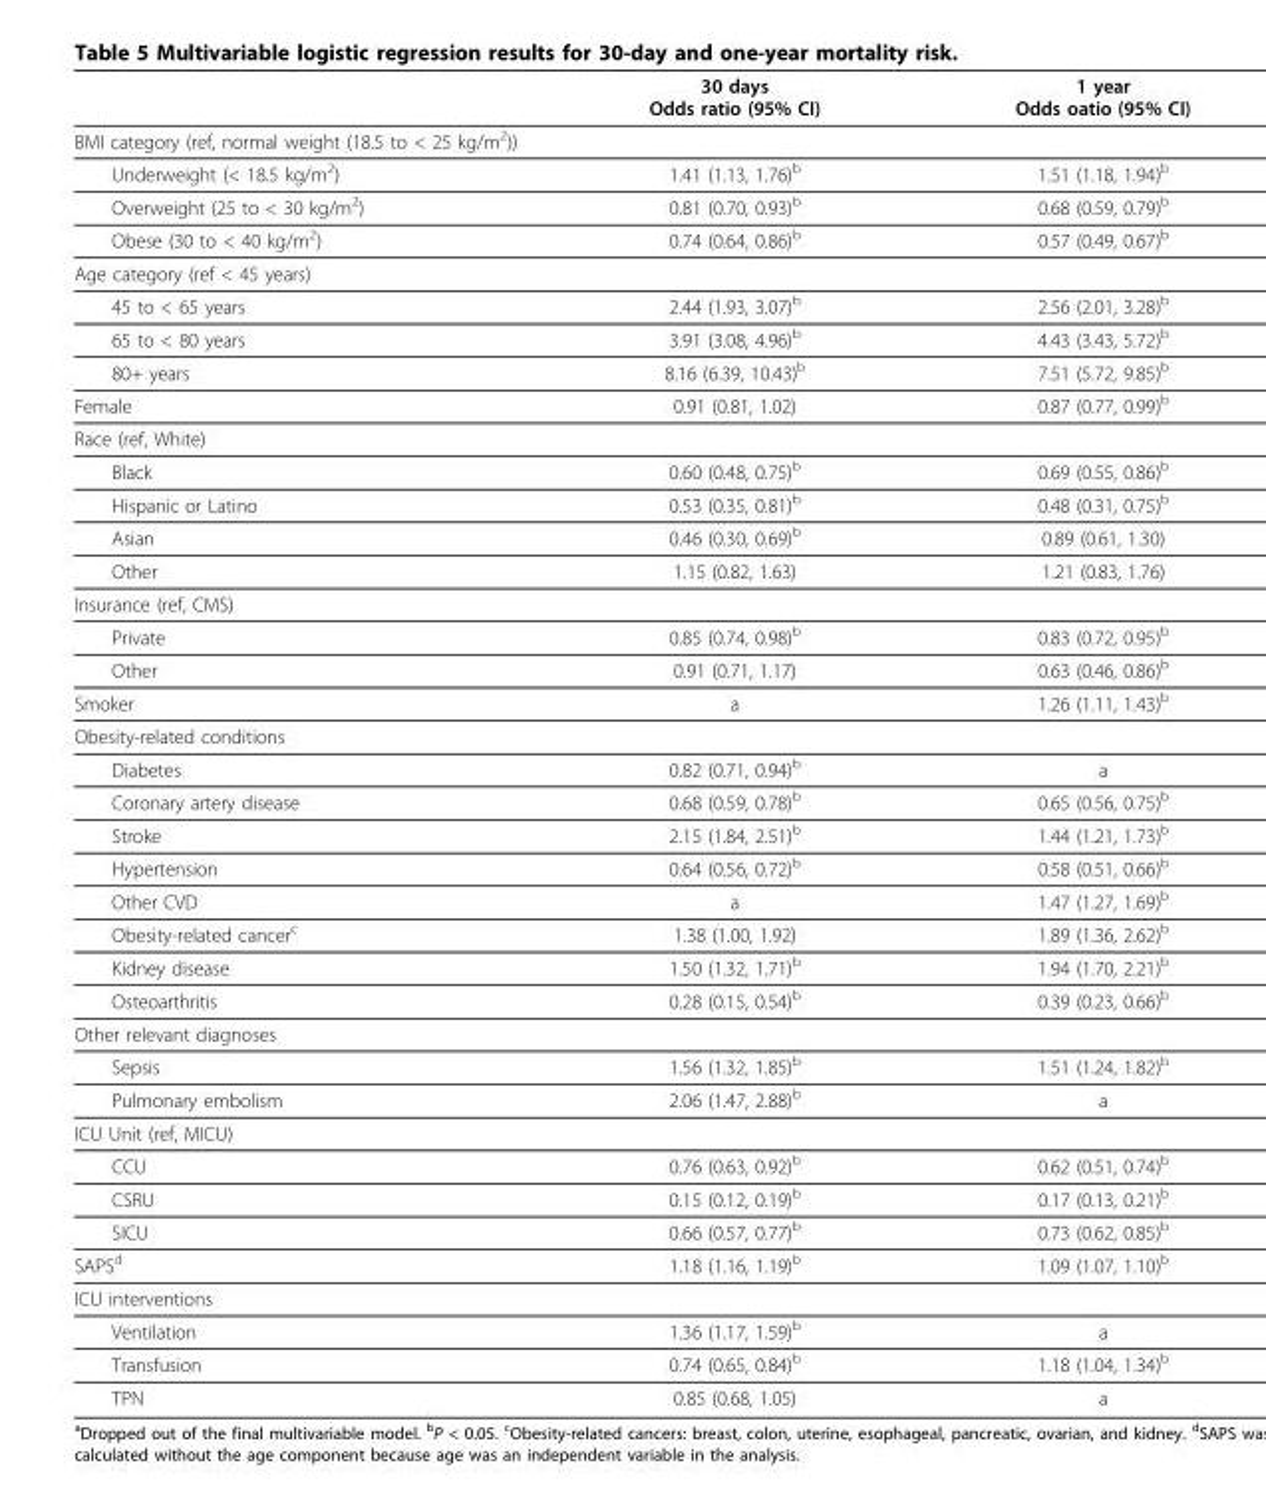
<table><thead><tr><td></td><td>30 days Odds ratio (95% CI)</td><td>1 year Odds oatio (95% CI)</td></tr></thead><tbody><tr><td colspan="3">BMI category (ref, normal weight (18.5 to &lt; 25 kg/m<sup>2</sup>))</td></tr><tr><td>Underweight (&lt; 18.5 kg/m<sup>2</sup>)</td><td>1.41 (1.13, 1.76)<sup>b</sup></td><td>1.51 (1.18, 1.94)<sup>b</sup></td></tr><tr><td>Overweight (25 to &lt; 30 kg/m<sup>2</sup>)</td><td>0.81 (0.70, 0.93)<sup>b</sup></td><td>0.68 (0.59, 0.79)<sup>b</sup></td></tr><tr><td>Obese (30 to &lt; 40 kg/m<sup>2</sup>)</td><td>0.74 (0.64, 0.86)<sup>b</sup></td><td>0.57 (0.49, 0.67)<sup>b</sup></td></tr><tr><td colspan="3">Age category (ref &lt; 45 years)</td></tr><tr><td>45 to &lt; 65 years</td><td>2.44 (1.93, 3.07)<sup>b</sup></td><td>2.56 (2.01, 3.28)<sup>b</sup></td></tr><tr><td>65 to &lt; 80 years</td><td>3.91 (3.08, 4.96)<sup>b</sup></td><td>4.43 (3.43, 5.72)<sup>b</sup></td></tr><tr><td>80+ years</td><td>8.16 (6.39, 10.43)<sup>b</sup></td><td>7.51 (5.72, 9.85)<sup>b</sup></td></tr><tr><td>Female</td><td>0.91 (0.81, 1.02)</td><td>0.87 (0.77, 0.99)<sup>b</sup></td></tr><tr><td colspan="3">Race (ref, White)</td></tr><tr><td>Black</td><td>0.60 (0.48, 0.75)<sup>b</sup></td><td>0.69 (0.55, 0.86)<sup>b</sup></td></tr><tr><td>Hispanic or Latino</td><td>0.53 (0.35, 0.81)<sup>b</sup></td><td>0.48 (0.31, 0.75)<sup>b</sup></td></tr><tr><td>Asian</td><td>0.46 (0.30, 0.69)<sup>b</sup></td><td>0.89 (0.61, 1.30)</td></tr><tr><td>Other</td><td>1.15 (0.82, 1.63)</td><td>1.21 (0.83, 1.76)</td></tr><tr><td colspan="3">Insurance (ref, CMS)</td></tr><tr><td>Private</td><td>0.85 (0.74, 0.98)<sup>b</sup></td><td>0.83 (0.72, 0.95)<sup>b</sup></td></tr><tr><td>Other</td><td>0.91 (0.71, 1.17)</td><td>0.63 (0.46, 0.86)<sup>b</sup></td></tr><tr><td>Smoker</td><td>a</td><td>1.26 (1.11, 1.43)<sup>b</sup></td></tr><tr><td colspan="3">Obesity-related conditions</td></tr><tr><td>Diabetes</td><td>0.82 (0.71, 0.94)<sup>b</sup></td><td>a</td></tr><tr><td>Coronary artery disease</td><td>0.68 (0.59, 0.78)<sup>b</sup></td><td>0.65 (0.56, 0.75)<sup>b</sup></td></tr><tr><td>Stroke</td><td>2.15 (1.84, 2.51)<sup>b</sup></td><td>1.44 (1.21, 1.73)<sup>b</sup></td></tr><tr><td>Hypertension</td><td>0.64 (0.56, 0.72)<sup>b</sup></td><td>0.58 (0.51, 0.66)<sup>b</sup></td></tr><tr><td>Other CVD</td><td>a</td><td>1.47 (1.27, 1.69)<sup>b</sup></td></tr><tr><td>Obesity-related cancer<sup>c</sup></td><td>1.38 (1.00, 1.92)</td><td>1.89 (1.36, 2.62)<sup>b</sup></td></tr><tr><td>Kidney disease</td><td>1.50 (1.32, 1.71)<sup>b</sup></td><td>1.94 (1.70, 2.21)<sup>b</sup></td></tr><tr><td>Osteoarthritis</td><td>0.28 (0.15, 0.54)<sup>b</sup></td><td>0.39 (0.23, 0.66)<sup>b</sup></td></tr><tr><td colspan="3">Other relevant diagnoses</td></tr><tr><td>Sepsis</td><td>1.56 (1.32, 1.85)<sup>b</sup></td><td>1.51 (1.24, 1.82)<sup>b</sup></td></tr><tr><td>Pulmonary embolism</td><td>2.06 (1.47, 2.88)<sup>b</sup></td><td>a</td></tr><tr><td colspan="3">ICU Unit (ref, MICU)</td></tr><tr><td>CCU</td><td>0.76 (0.63, 0.92)<sup>b</sup></td><td>0.62 (0.51, 0.74)<sup>b</sup></td></tr><tr><td>CSRU</td><td>0.15 (0.12, 0.19)<sup>b</sup></td><td>0.17 (0.13, 0.21)<sup>b</sup></td></tr><tr><td>SICU</td><td>0.66 (0.57, 0.77)<sup>b</sup></td><td>0.73 (0.62, 0.85)<sup>b</sup></td></tr><tr><td>SAPS<sup>d</sup></td><td>1.18 (1.16, 1.19)<sup>b</sup></td><td>1.09 (1.07, 1.10)<sup>b</sup></td></tr><tr><td colspan="3">ICU interventions</td></tr><tr><td>Ventilation</td><td>1.36 (1.17, 1.59)<sup>b</sup></td><td>a</td></tr><tr><td>Transfusion</td><td>0.74 (0.65, 0.84)<sup>b</sup></td><td>1.18 (1.04, 1.34)<sup>b</sup></td></tr><tr><td>TPN</td><td>0.85 (0.68, 1.05)</td><td>a</td></tr></tbody></table>